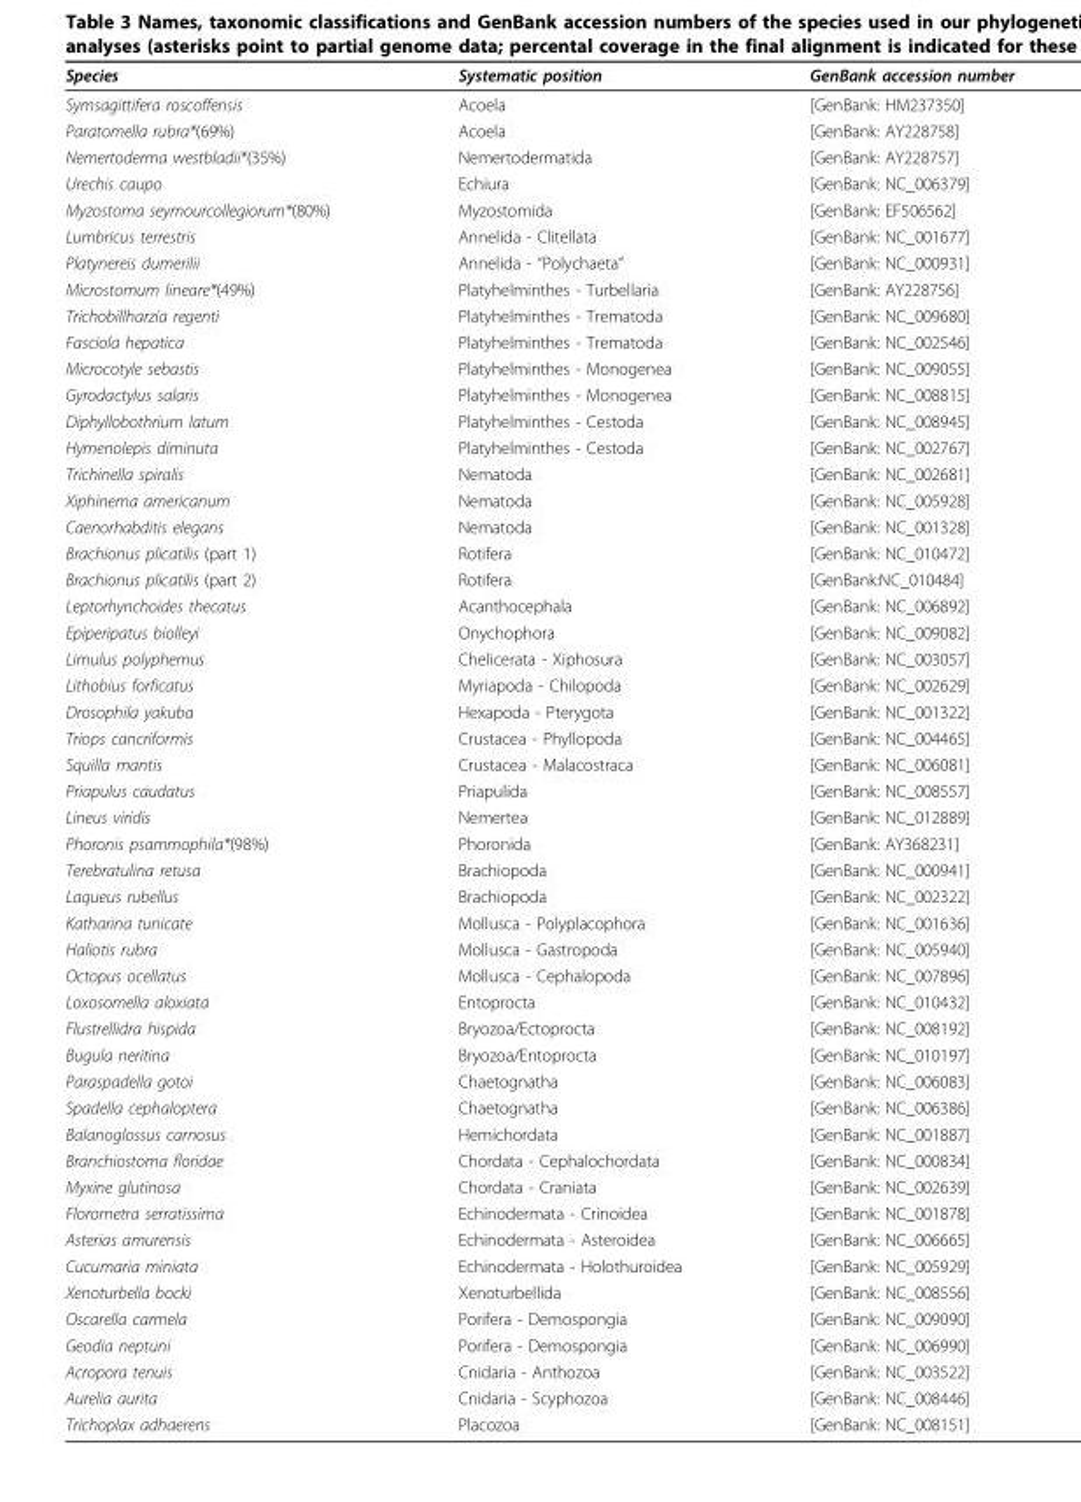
<table><thead><tr><td>Species</td><td>Systematic position</td><td>GenBank accession number</td></tr></thead><tbody><tr><td>Symsagittifera roscoffensis</td><td>Acoela</td><td>[GenBank: HM237350]</td></tr><tr><td>Paratomella rubra*(69%)</td><td>Acoela</td><td>[GenBank: AY228758]</td></tr><tr><td>Nemertoderma westbladii*(35%)</td><td>Nemertodermatida</td><td>[GenBank: AY228757]</td></tr><tr><td>Urechis caupo</td><td>Echiura</td><td>[GenBank: NC_006379]</td></tr><tr><td>Myzostoma seymourcollegiorum*(80%)</td><td>Myzostomida</td><td>[GenBank: EF506562]</td></tr><tr><td>Lumbricus terrestris</td><td>Annelida - Clitellata</td><td>[GenBank: NC_001677]</td></tr><tr><td>Platynereis dumerilii</td><td>Annelida - “Polychaeta”</td><td>[GenBank: NC_000931]</td></tr><tr><td>Microstomum lineare*(49%)</td><td>Platyhelminthes - Turbellaria</td><td>[GenBank: AY228756]</td></tr><tr><td>Trichobillharzia regenti</td><td>Platyhelminthes - Trematoda</td><td>[GenBank: NC_009680]</td></tr><tr><td>Fasciola hepatica</td><td>Platyhelminthes - Trematoda</td><td>[GenBank: NC_002546]</td></tr><tr><td>Microcotyle sebastis</td><td>Platyhelminthes - Monogenea</td><td>[GenBank: NC_009055]</td></tr><tr><td>Gyrodactylus salaris</td><td>Platyhelminthes - Monogenea</td><td>[GenBank: NC_008815]</td></tr><tr><td>Diphyllobothrium latum</td><td>Platyhelminthes - Cestoda</td><td>[GenBank: NC_008945]</td></tr><tr><td>Hymenolepis diminuta</td><td>Platyhelminthes - Cestoda</td><td>[GenBank: NC_002767]</td></tr><tr><td>Trichinella spiralis</td><td>Nematoda</td><td>[GenBank: NC_002681]</td></tr><tr><td>Xiphinema americanum</td><td>Nematoda</td><td>[GenBank: NC_005928]</td></tr><tr><td>Caenorhabditis elegans</td><td>Nematoda</td><td>[GenBank: NC_001328]</td></tr><tr><td>Brachionus plicatilis (part 1)</td><td>Rotifera</td><td>[GenBank: NC_010472]</td></tr><tr><td>Brachionus plicatilis (part 2)</td><td>Rotifera</td><td>[GenBank:NC_010484]</td></tr><tr><td>Leptorhynchoides thecatus</td><td>Acanthocephala</td><td>[GenBank: NC_006892]</td></tr><tr><td>Epiperipatus biolleyi</td><td>Onychophora</td><td>[GenBank: NC_009082]</td></tr><tr><td>Limulus polyphemus</td><td>Chelicerata - Xiphosura</td><td>[GenBank: NC_003057]</td></tr><tr><td>Lithobius forficatus</td><td>Myriapoda - Chilopoda</td><td>[GenBank: NC_002629]</td></tr><tr><td>Drosophila yakuba</td><td>Hexapoda - Pterygota</td><td>[GenBank: NC_001322]</td></tr><tr><td>Triops cancriformis</td><td>Crustacea - Phyllopoda</td><td>[GenBank: NC_004465]</td></tr><tr><td>Squilla mantis</td><td>Crustacea - Malacostraca</td><td>[GenBank: NC_006081]</td></tr><tr><td>Priapulus caudatus</td><td>Priapulida</td><td>[GenBank: NC_008557]</td></tr><tr><td>Lineus viridis</td><td>Nemertea</td><td>[GenBank: NC_012889]</td></tr><tr><td>Phoronis psammophila*(98%)</td><td>Phoronida</td><td>[GenBank: AY368231]</td></tr><tr><td>Terebratulina retusa</td><td>Brachiopoda</td><td>[GenBank: NC_000941]</td></tr><tr><td>Laqueus rubellus</td><td>Brachiopoda</td><td>[GenBank: NC_002322]</td></tr><tr><td>Katharina tunicate</td><td>Mollusca - Polyplacophora</td><td>[GenBank: NC_001636]</td></tr><tr><td>Haliotis rubra</td><td>Mollusca - Gastropoda</td><td>[GenBank: NC_005940]</td></tr><tr><td>Octopus ocellatus</td><td>Mollusca - Cephalopoda</td><td>[GenBank: NC_007896]</td></tr><tr><td>Loxosomella aloxiata</td><td>Entoprocta</td><td>[GenBank: NC_010432]</td></tr><tr><td>Flustrellidra hispida</td><td>Bryozoa/Ectoprocta</td><td>[GenBank: NC_008192]</td></tr><tr><td>Bugula neritina</td><td>Bryozoa/Entoprocta</td><td>[GenBank: NC_010197]</td></tr><tr><td>Paraspadella gotoi</td><td>Chaetognatha</td><td>[GenBank: NC_006083]</td></tr><tr><td>Spadella cephaloptera</td><td>Chaetognatha</td><td>[GenBank: NC_006386]</td></tr><tr><td>Balanoglossus carnosus</td><td>Hemichordata</td><td>[GenBank: NC_001887]</td></tr><tr><td>Branchiostoma floridae</td><td>Chordata - Cephalochordata</td><td>[GenBank: NC_000834]</td></tr><tr><td>Myxine glutinosa</td><td>Chordata - Craniata</td><td>[GenBank: NC_002639]</td></tr><tr><td>Florometra serratissima</td><td>Echinodermata - Crinoidea</td><td>[GenBank: NC_001878]</td></tr><tr><td>Asterias amurensis</td><td>Echinodermata - Asteroidea</td><td>[GenBank: NC_006665]</td></tr><tr><td>Cucumaria miniata</td><td>Echinodermata - Holothuroidea</td><td>[GenBank: NC_005929]</td></tr><tr><td>Xenoturbella bocki</td><td>Xenoturbellida</td><td>[GenBank: NC_008556]</td></tr><tr><td>Oscarella carmela</td><td>Porifera - Demospongia</td><td>[GenBank: NC_009090]</td></tr><tr><td>Geodia neptuni</td><td>Porifera - Demospongia</td><td>[GenBank: NC_006990]</td></tr><tr><td>Acropora tenuis</td><td>Cnidaria - Anthozoa</td><td>[GenBank: NC_003522]</td></tr><tr><td>Aurelia aurita</td><td>Cnidaria - Scyphozoa</td><td>[GenBank: NC_008446]</td></tr><tr><td>Trichoplax adhaerens</td><td>Placozoa</td><td>[GenBank: NC_008151]</td></tr></tbody></table>